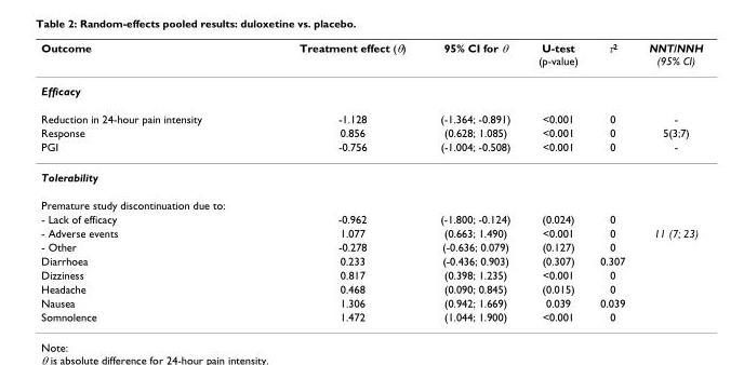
<table><thead><tr><td>Outcome</td><td>Treatment effect (θ)</td><td>95% CI for θ</td><td>U-test (p-value)</td><td>τ<sup>2</sup></td><td>NNT/NNH (95% CI)</td></tr></thead><tbody><tr><td colspan="6">Efficacy</td></tr><tr><td>Reduction in 24-hour pain intensity</td><td>-1.128</td><td>(-1.364; -0.891)</td><td>&lt;0.001</td><td>0</td><td>-</td></tr><tr><td>Response</td><td>0.856</td><td>(0.628; 1.085)</td><td>&lt;0.001</td><td>0</td><td>5(3;7)</td></tr><tr><td>PGI</td><td>-0.756</td><td>(-1.004; -0.508)</td><td>&lt;0.001</td><td>0</td><td>-</td></tr><tr><td colspan="6">Tolerability</td></tr><tr><td colspan="6">Premature study discontinuation due to:</td></tr><tr><td>- Lack of efficacy</td><td>-0.962</td><td>(-1.800; -0.124)</td><td>(0.024)</td><td>0</td><td></td></tr><tr><td>- Adverse events</td><td>1.077</td><td>(0.663; 1.490)</td><td>&lt;0.001</td><td>0</td><td>11 (7; 23)</td></tr><tr><td>- Other</td><td>-0.278</td><td>(-0.636; 0.079)</td><td>(0.127)</td><td>0</td><td></td></tr><tr><td>Diarrhoea</td><td>0.233</td><td>(-0.436; 0.903)</td><td>(0.307)</td><td>0.307</td><td></td></tr><tr><td>Dizziness</td><td>0.817</td><td>(0.398; 1.235)</td><td>&lt;0.001</td><td>0</td><td></td></tr><tr><td>Headache</td><td>0.468</td><td>(0.090; 0.845)</td><td>(0.015)</td><td>0</td><td></td></tr><tr><td>Nausea</td><td>1.306</td><td>(0.942; 1.669)</td><td>0.039</td><td>0.039</td><td></td></tr><tr><td>Somnolence</td><td>1.472</td><td>(1.044; 1.900)</td><td>&lt;0.001</td><td>0</td><td></td></tr></tbody></table>